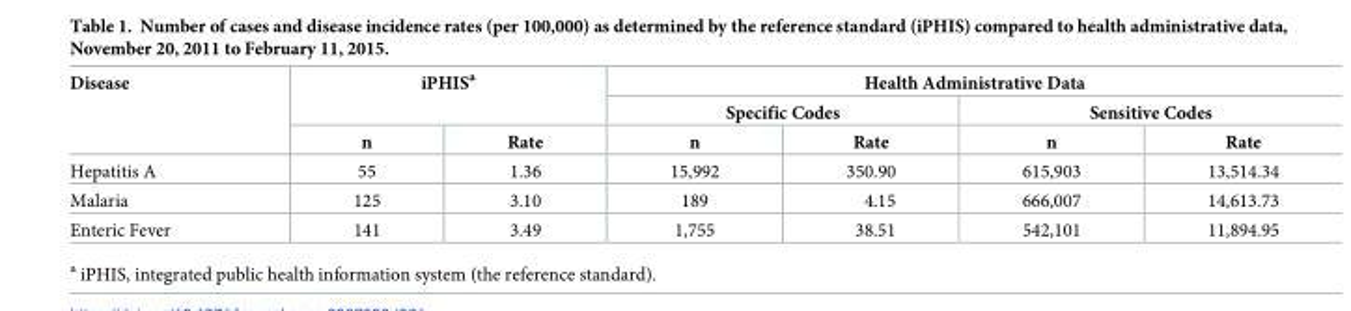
<table><thead><tr><td rowspan="3">Disease</td><td rowspan="2" colspan="2">iPHIS<sup>a</sup></td><td colspan="4">Health Administrative Data</td></tr><tr><td colspan="2">Specific Codes</td><td colspan="2">Sensitive Codes</td></tr><tr><td>n</td><td>Rate</td><td>n</td><td>Rate</td><td>n</td><td>Rate</td></tr></thead><tbody><tr><td>Hepatitis A</td><td>55</td><td>1.36</td><td>15,992</td><td>350.90</td><td>615,903</td><td>13,514.34</td></tr><tr><td>Malaria</td><td>125</td><td>3.10</td><td>189</td><td>4.15</td><td>666,007</td><td>14,613.73</td></tr><tr><td>Enteric Fever</td><td>141</td><td>3.49</td><td>1,755</td><td>38.51</td><td>542,101</td><td>11,894.95</td></tr></tbody></table>